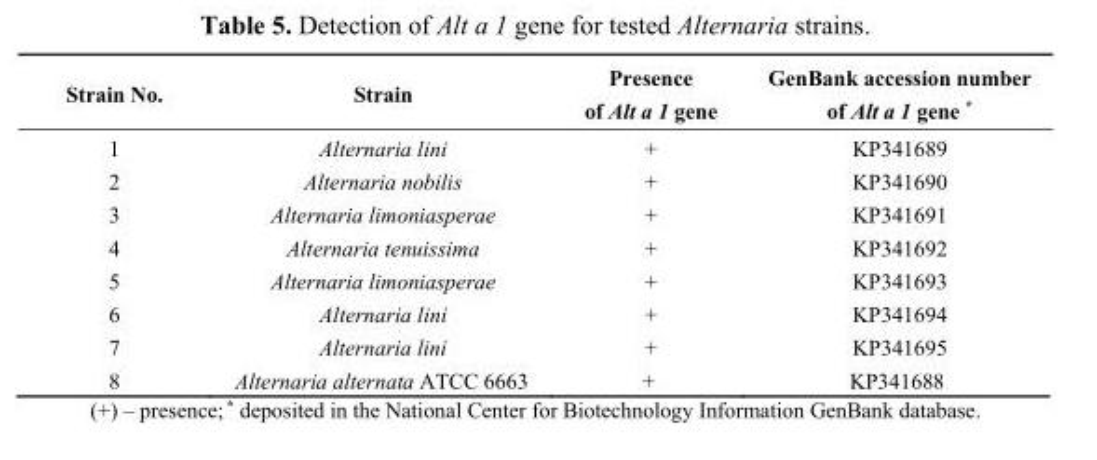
<table><thead><tr><td>Strain No.</td><td>Strain</td><td>Presence of Alt a 1 gene</td><td>GenBank accession number of Alt a 1 gene *</td></tr></thead><tbody><tr><td>1</td><td>Alternaria lini</td><td>+</td><td>KP341689</td></tr><tr><td>2</td><td>Alternaria nobilis</td><td>+</td><td>KP341690</td></tr><tr><td>3</td><td>Alternaria limoniasperae</td><td>+</td><td>KP341691</td></tr><tr><td>4</td><td>Alternaria tenuissima</td><td>+</td><td>KP341692</td></tr><tr><td>5</td><td>Alternaria limoniasperae</td><td>+</td><td>KP341693</td></tr><tr><td>6</td><td>Alternaria lini</td><td>+</td><td>KP341694</td></tr><tr><td>7</td><td>Alternaria lini</td><td>+</td><td>KP341695</td></tr><tr><td>8</td><td>Alternaria alternata ATCC 6663</td><td>+</td><td>KP341688</td></tr></tbody></table>